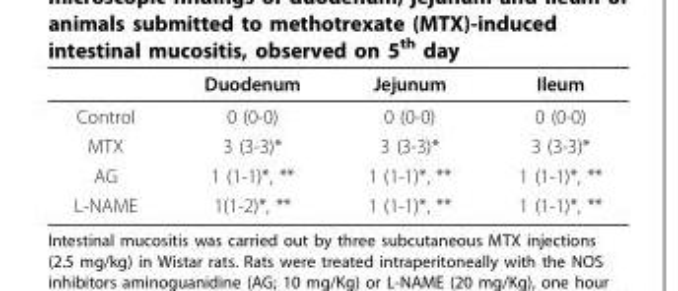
<table><thead><tr><td></td><td>Duodenum</td><td>Jejunum</td><td>Ileum</td></tr></thead><tbody><tr><td>Control</td><td>0 (0-0)</td><td>0 (0-0)</td><td>0 (0-0)</td></tr><tr><td>MTX</td><td>3 (3-3)*</td><td>3 (3-3)*</td><td>3 (3-3)*</td></tr><tr><td>AG</td><td>1 (1-1)*, **</td><td>1 (1-1)*, **</td><td>1 (1-1)*, **</td></tr><tr><td>L-NAME</td><td>1(1-2)*, **</td><td>1 (1-1)*, **</td><td>1 (1-1)*, **</td></tr></tbody></table>